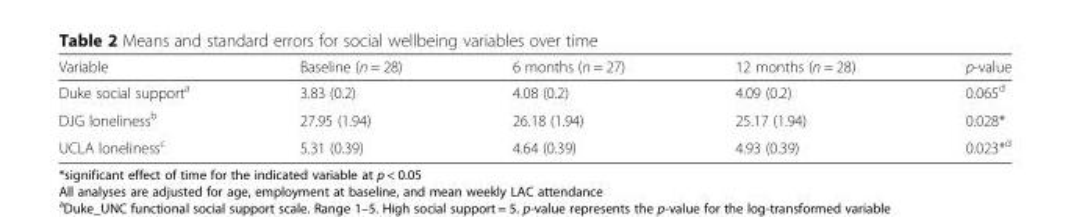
<table><thead><tr><td>Variable</td><td>Baseline (n = 28)</td><td>6 months (n = 27)</td><td>12 months (n = 28)</td><td>p-value</td></tr></thead><tbody><tr><td>Duke social support<sup>a</sup></td><td>3.83 (0.2)</td><td>4.08 (0.2)</td><td>4.09 (0.2)</td><td>0.065<sup>d</sup></td></tr><tr><td>DJG loneliness<sup>b</sup></td><td>27.95 (1.94)</td><td>26.18 (1.94)</td><td>25.17 (1.94)</td><td>0.028*</td></tr><tr><td>UCLA loneliness<sup>c</sup></td><td>5.31 (0.39)</td><td>4.64 (0.39)</td><td>4.93 (0.39)</td><td>0.023*<sup>d</sup></td></tr></tbody></table>